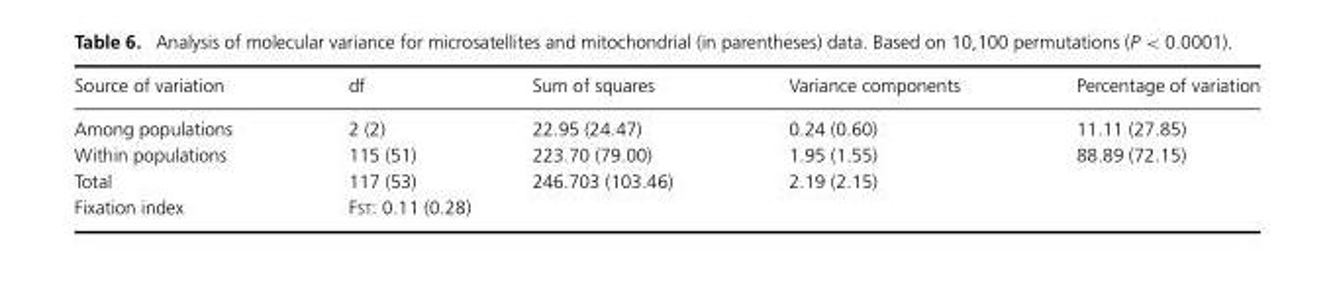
<table><thead><tr><td>Source of variation</td><td>df</td><td>Sum of squares</td><td>Variance components</td><td>Percentage of variation</td></tr></thead><tbody><tr><td>Among populations</td><td>2 (2)</td><td>22.95 (24.47)</td><td>0.24 (0.60)</td><td>11.11 (27.85)</td></tr><tr><td>Within populations</td><td>115 (51)</td><td>223.70 (79.00)</td><td>1.95 (1.55)</td><td>88.89 (72.15)</td></tr><tr><td>Total</td><td>117 (53)</td><td>246.703 (103.46)</td><td>2.19 (2.15)</td><td></td></tr><tr><td>Fixation index</td><td>FST: 0.11 (0.28)</td><td></td><td></td><td></td></tr></tbody></table>